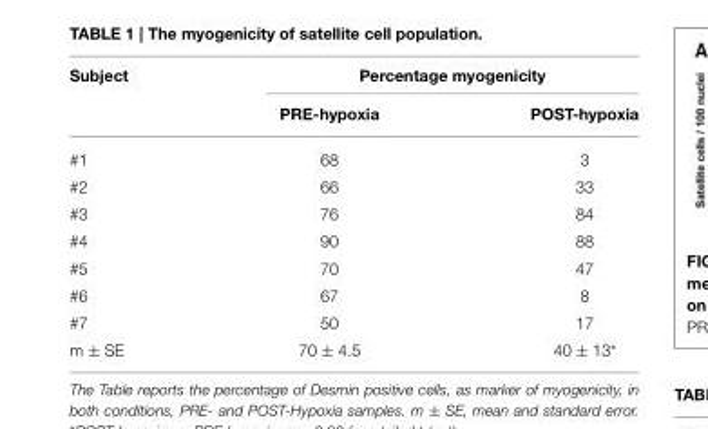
<table><thead><tr><td rowspan="2">Subject</td><td colspan="2">Percentage myogenicity</td></tr><tr><td>PRE-hypoxia</td><td>POST-hypoxia</td></tr></thead><tbody><tr><td>#1</td><td>68</td><td>3</td></tr><tr><td>#2</td><td>66</td><td>33</td></tr><tr><td>#3</td><td>76</td><td>84</td></tr><tr><td>#4</td><td>90</td><td>88</td></tr><tr><td>#5</td><td>70</td><td>47</td></tr><tr><td>#6</td><td>67</td><td>8</td></tr><tr><td>#7</td><td>50</td><td>17</td></tr><tr><td>m ± SE</td><td>70 ± 4.5</td><td>40 ± 13*</td></tr></tbody></table>